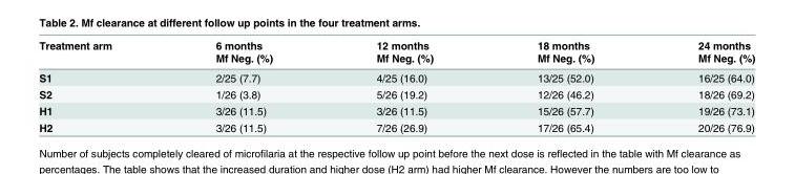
<table><thead><tr><td rowspan="2">Treatment arm</td><td rowspan="2">6 months Mf Neg. (%)</td><td rowspan="2">12 months Mf Neg. (%)</td><td rowspan="2">18 months Mf Neg. (%)</td><td rowspan="2">24 months Mf Neg. (%)</td></tr><tr></tr></thead><tbody><tr><td>S1</td><td>2/25 (7.7)</td><td>4/25 (16.0)</td><td>13/25 (52.0)</td><td>16/25 (64.0)</td></tr><tr><td>S2</td><td>1/26 (3.8)</td><td>5/26 (19.2)</td><td>12/26 (46.2)</td><td>18/26 (69.2)</td></tr><tr><td>H1</td><td>3/26 (11.5)</td><td>3/26 (11.5)</td><td>15/26 (57.7)</td><td>19/26 (73.1)</td></tr><tr><td>H2</td><td>3/26 (11.5)</td><td>7/26 (26.9)</td><td>17/26 (65.4)</td><td>20/26 (76.9)</td></tr></tbody></table>